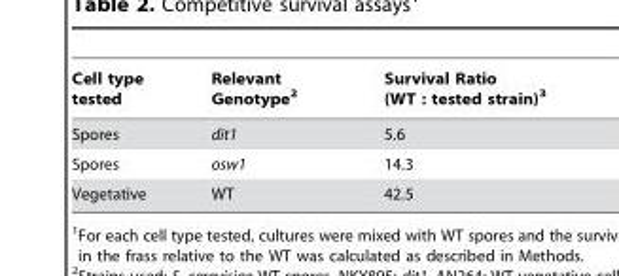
<table><thead><tr><td>Cell type tested</td><td>Relevant Genotype<sup>2</sup></td><td>Survival Ratio (WT : tested strain)<sup>3</sup></td></tr></thead><tbody><tr><td>Spores</td><td>dit1</td><td>5.6</td></tr><tr><td>Spores</td><td>osw1</td><td>14.3</td></tr><tr><td>Vegetative</td><td>WT</td><td>42.5</td></tr></tbody></table>